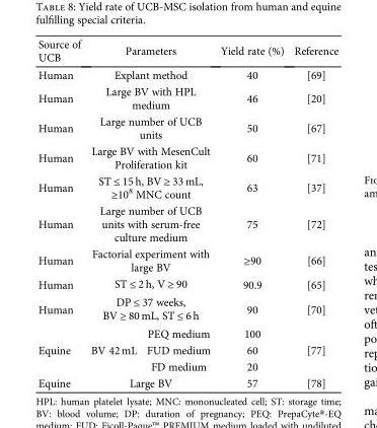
<table><thead><tr><td>Source of UCB</td><td colspan="2">Parameters</td><td>Yield rate (%)</td><td>Reference</td></tr></thead><tbody><tr><td>Human</td><td colspan="2">Explant method</td><td>40</td><td>[69]</td></tr><tr><td>Human</td><td colspan="2">Large BV with HPL medium</td><td>46</td><td>[20]</td></tr><tr><td>Human</td><td colspan="2">Large number of UCB units</td><td>50</td><td>[67]</td></tr><tr><td>Human</td><td colspan="2">Large BV with MesenCult Proliferation kit</td><td>60</td><td>[71]</td></tr><tr><td>Human</td><td colspan="2">ST ≤ 15 h, BV ≥ 33 mL, ≥10<sup>8</sup> MNC count</td><td>63</td><td>[37]</td></tr><tr><td>Human</td><td colspan="2">Large number of UCB units with serum-free culture medium</td><td>75</td><td>[72]</td></tr><tr><td>Human</td><td colspan="2">Factorial experiment with large BV</td><td>≥90</td><td>[66]</td></tr><tr><td>Human</td><td colspan="2">ST ≤ 2 h, V ≥ 90</td><td>90.9</td><td>[65]</td></tr><tr><td>Human</td><td colspan="2">DP ≤ 37 weeks, BV ≥ 80 mL, ST ≤ 6 h</td><td>90</td><td>[70]</td></tr><tr><td rowspan="3">Equine</td><td rowspan="3">BV 42 mL</td><td>PEQ medium</td><td>100</td><td rowspan="3">[77]</td></tr><tr><td>FUD medium</td><td>60</td></tr><tr><td>FD medium</td><td>20</td></tr><tr><td>Equine</td><td colspan="2">Large BV</td><td>57</td><td>[78]</td></tr></tbody></table>